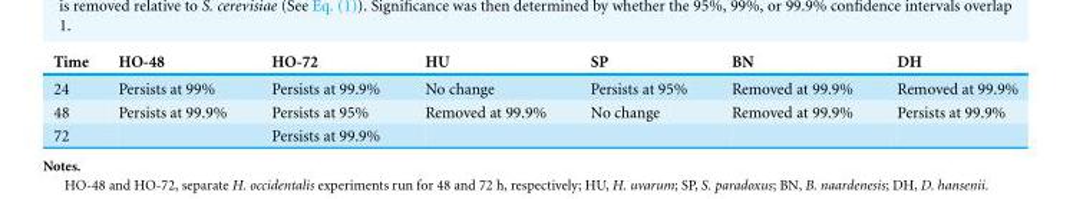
<table><thead><tr><td>Time</td><td>HO-48</td><td>HO-72</td><td>HU</td><td>SP</td><td>BN</td><td>DH</td></tr></thead><tbody><tr><td>24</td><td>Persists at 99%</td><td>Persists at 99.9%</td><td>No change</td><td>Persists at 95%</td><td>Removed at 99.9%</td><td>Removed at 99.9%</td></tr><tr><td>48</td><td>Persists at 99.9%</td><td>Persists at 95%</td><td>Removed at 99.9%</td><td>No change</td><td>Removed at 99.9%</td><td>Persists at 99.9%</td></tr><tr><td>72</td><td></td><td>Persists at 99.9%</td><td></td><td></td><td></td><td></td></tr></tbody></table>